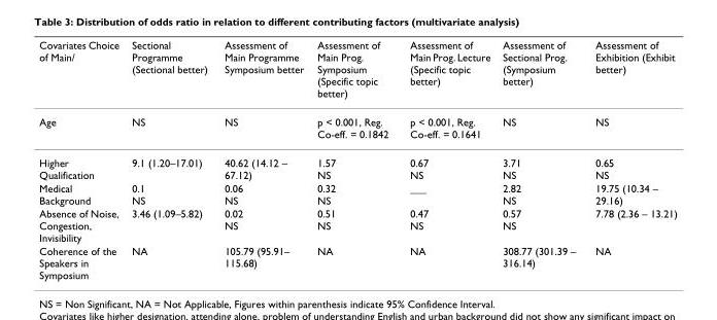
<table><thead><tr><td>Covariates Choice of Main/</td><td>Sectional Programme (Sectional better)</td><td>Assessment of Main Programme Symposium better</td><td>Assessment of Main Prog. Symposium (Specific topic better)</td><td>Assessment of Main Prog. Lecture (Specific topic better)</td><td>Assessment of Sectional Prog. (Symposium better)</td><td>Assessment of Exhibition (Exhibit better)</td></tr></thead><tbody><tr><td>Age</td><td>NS</td><td>NS</td><td>p &lt; 0.001, Reg. Co-eff. = 0.1842</td><td>p &lt; 0.001, Reg. Co-eff. = 0.1641</td><td>NS</td><td>NS</td></tr><tr><td>Higher Qualification</td><td>9.1 (1.20–17.01)</td><td>40.62 (14.12 – 67.12)</td><td>1.57 NS</td><td>0.67 NS</td><td>3.71 NS</td><td>0.65 NS</td></tr><tr><td>Medical Background</td><td>0.1 NS</td><td>0.06 NS</td><td>0.32 NS</td><td>___</td><td>2.82 NS</td><td>19.75 (10.34 – 29.16)</td></tr><tr><td>Absence of Noise, Congestion, Invisibility</td><td>3.46 (1.09–5.82)</td><td>0.02 NS</td><td>0.51 NS</td><td>0.47 NS</td><td>0.57 NS</td><td>7.78 (2.36 – 13.21)</td></tr><tr><td>Coherence of the Speakers in Symposium</td><td>NA</td><td>105.79 (95.91– 115.68)</td><td>NA</td><td>NA</td><td>308.77 (301.39 – 316.14)</td><td>NA</td></tr></tbody></table>